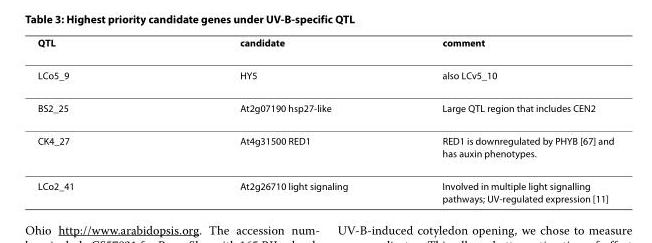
<table><thead><tr><td>QTL</td><td>candidate</td><td>comment</td></tr></thead><tbody><tr><td>LCo5_9</td><td>HY5</td><td>also LCv5_10</td></tr><tr><td>BS2_25</td><td>At2g07190 hsp27-like</td><td>Large QTL region that includes CEN2</td></tr><tr><td>CK4_27</td><td>At4g31500 RED1</td><td>RED1 is downregulated by PHYB [67] and has auxin phenotypes.</td></tr><tr><td>LCo2_41</td><td>At2g26710 light signaling</td><td>Involved in multiple light signalling pathways; UV-regulated expression [11]</td></tr></tbody></table>